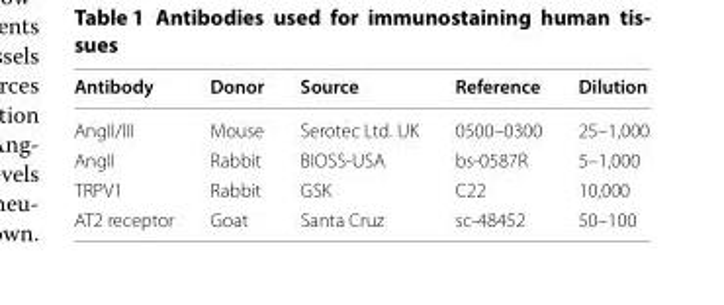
<table><thead><tr><td>Antibody</td><td>Donor</td><td>Source</td><td>Reference</td><td>Dilution</td></tr></thead><tbody><tr><td>AngII/III</td><td>Mouse</td><td>Serotec Ltd. UK</td><td>0500–0300</td><td>25–1,000</td></tr><tr><td>AngII</td><td>Rabbit</td><td>BIOSS-USA</td><td>bs-0587R</td><td>5–1,000</td></tr><tr><td>TRPV1</td><td>Rabbit</td><td>GSK</td><td>C22</td><td>10,000</td></tr><tr><td>AT2 receptor</td><td>Goat</td><td>Santa Cruz</td><td>sc-48452</td><td>50–100</td></tr></tbody></table>